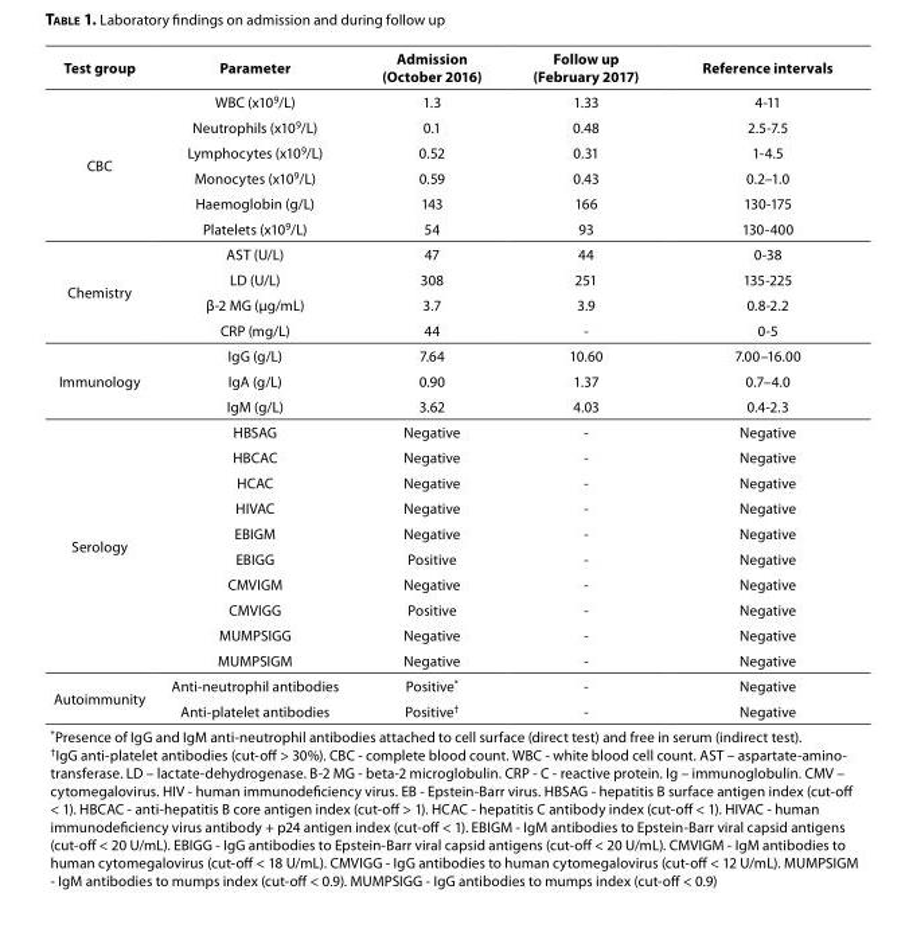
<table><thead><tr><td>Test group</td><td>Parameter</td><td>Admission (October 2016)</td><td>Follow up (February 2017)</td><td>Reference intervals</td></tr></thead><tbody><tr><td rowspan="6">CBC</td><td>WBC (x10<sup>9</sup>/L)</td><td>1.3</td><td>1.33</td><td>4-11</td></tr><tr><td>Neutrophils (x10<sup>9</sup>/L)</td><td>0.1</td><td>0.48</td><td>2.5-7.5</td></tr><tr><td>Lymphocytes (x10<sup>9</sup>/L)</td><td>0.52</td><td>0.31</td><td>1-4.5</td></tr><tr><td>Monocytes (x10<sup>9</sup>/L)</td><td>0.59</td><td>0.43</td><td>0.2–1.0</td></tr><tr><td>Haemoglobin (g/L)</td><td>143</td><td>166</td><td>130-175</td></tr><tr><td>Platelets (x10<sup>9</sup>/L)</td><td>54</td><td>93</td><td>130-400</td></tr><tr><td rowspan="4">Chemistry</td><td>AST (U/L)</td><td>47</td><td>44</td><td>0-38</td></tr><tr><td>LD (U/L)</td><td>308</td><td>251</td><td>135-225</td></tr><tr><td>β-2 MG (µg/mL)</td><td>3.7</td><td>3.9</td><td>0.8-2.2</td></tr><tr><td>CRP (mg/L)</td><td>44</td><td>-</td><td>0-5</td></tr><tr><td rowspan="3">Immunology</td><td>IgG (g/L)</td><td>7.64</td><td>10.60</td><td>7.00–16.00</td></tr><tr><td>IgA (g/L)</td><td>0.90</td><td>1.37</td><td>0.7–4.0</td></tr><tr><td>IgM (g/L)</td><td>3.62</td><td>4.03</td><td>0.4-2.3</td></tr><tr><td rowspan="10">Serology</td><td>HBSAG</td><td>Negative</td><td>-</td><td>Negative</td></tr><tr><td>HBCAC</td><td>Negative</td><td>-</td><td>Negative</td></tr><tr><td>HCAC</td><td>Negative</td><td>-</td><td>Negative</td></tr><tr><td>HIVAC</td><td>Negative</td><td>-</td><td>Negative</td></tr><tr><td>EBIGM</td><td>Negative</td><td>-</td><td>Negative</td></tr><tr><td>EBIGG</td><td>Positive</td><td>-</td><td>Negative</td></tr><tr><td>CMVIGM</td><td>Negative</td><td>-</td><td>Negative</td></tr><tr><td>CMVIGG</td><td>Positive</td><td>-</td><td>Negative</td></tr><tr><td>MUMPSIGG</td><td>Negative</td><td>-</td><td>Negative</td></tr><tr><td>MUMPSIGM</td><td>Negative</td><td>-</td><td>Negative</td></tr><tr><td rowspan="2">Autoimmunity</td><td>Anti-neutrophil antibodies</td><td>Positive*</td><td>-</td><td>Negative</td></tr><tr><td>Anti-platelet antibodies</td><td>Positive<sup>†</sup></td><td>-</td><td>Negative</td></tr><tr><td colspan="5">*Presence of IgG and IgM anti-neutrophil antibodies attached to cell surface (direct test) and free in serum (indirect test). †IgG anti-platelet antibodies (cut-off &gt; 30%). CBC - complete blood count. WBC - white blood cell count. AST – aspartate-amino- transferase. LD – lactate-dehydrogenase. B-2 MG - beta-2 microglobulin. CRP - C - reactive protein. Ig – immunoglobulin. CMV – cytomegalovirus. HIV - human immunodeficiency virus. EB - Epstein-Barr virus. HBSAG - hepatitis B surface antigen index (cut-off &lt; 1). HBCAC - anti-hepatitis B core antigen index (cut-off &gt; 1). HCAC - hepatitis C antibody index (cut-off &lt; 1). HIVAC - human immunodeficiency virus antibody + p24 antigen index (cut-off &lt; 1). EBIGM - IgM antibodies to Epstein-Barr viral capsid antigens (cut-off &lt; 20 U/mL). EBIGG - IgG antibodies to Epstein-Barr viral capsid antigens (cut-off &lt; 20 U/mL). CMVIGM - IgM antibodies to human cytomegalovirus (cut-off &lt; 18 U/mL). CMVIGG - IgG antibodies to human cytomegalovirus (cut-off &lt; 12 U/mL). MUMPSIGM - IgM antibodies to mumps index (cut-off &lt; 0.9). MUMPSIGG - IgG antibodies to mumps index (cut-off &lt; 0.9)</td></tr></tbody></table>